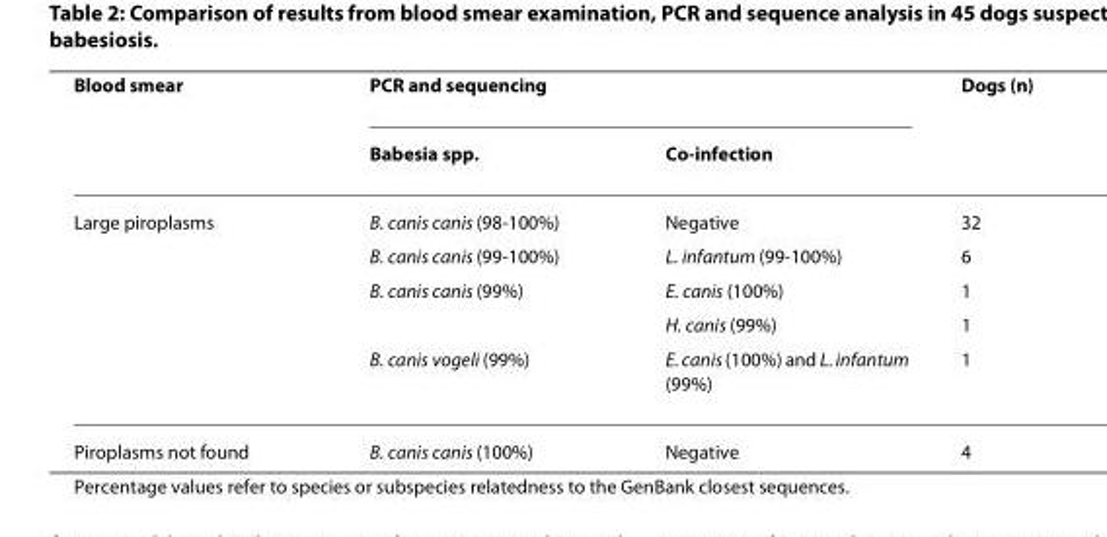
<table><thead><tr><td rowspan="2">Blood smear</td><td colspan="2">PCR and sequencing</td><td rowspan="2">Dogs (n)</td></tr><tr><td>Babesia spp.</td><td>Co-infection</td></tr></thead><tbody><tr><td rowspan="5">Large piroplasms</td><td>B. canis canis (98-100%)</td><td>Negative</td><td>32</td></tr><tr><td>B. canis canis (99-100%)</td><td>L. infantum (99-100%)</td><td>6</td></tr><tr><td>B. canis canis (99%)</td><td>E. canis (100%)</td><td>1</td></tr><tr><td></td><td>H. canis (99%)</td><td>1</td></tr><tr><td>B. canis vogeli (99%)</td><td>E. canis (100%) and L. infantum (99%)</td><td>1</td></tr><tr><td>Piroplasms not found</td><td>B. canis canis (100%)</td><td>Negative</td><td>4</td></tr></tbody></table>